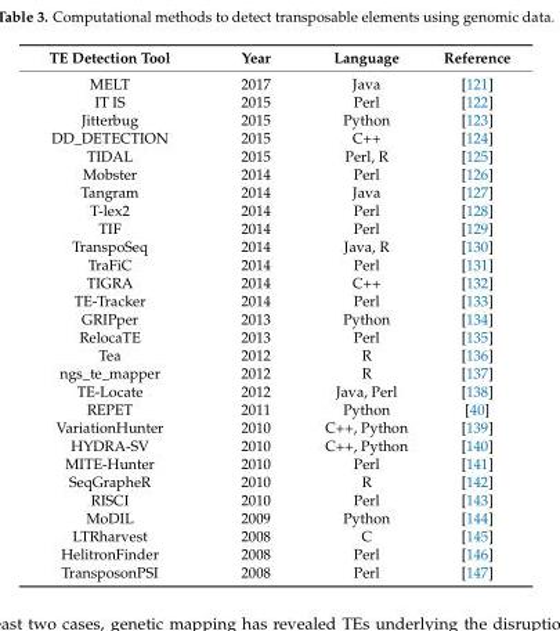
<table><thead><tr><td>TE Detection Tool</td><td>Year</td><td>Language</td><td>Reference</td></tr></thead><tbody><tr><td>MELT</td><td>2017</td><td>Java</td><td>[121]</td></tr><tr><td>IT IS</td><td>2015</td><td>Perl</td><td>[122]</td></tr><tr><td>Jitterbug</td><td>2015</td><td>Python</td><td>[123]</td></tr><tr><td>DD_DETECTION</td><td>2015</td><td>C++</td><td>[124]</td></tr><tr><td>TIDAL</td><td>2015</td><td>Perl, R</td><td>[125]</td></tr><tr><td>Mobster</td><td>2014</td><td>Perl</td><td>[126]</td></tr><tr><td>Tangram</td><td>2014</td><td>Java</td><td>[127]</td></tr><tr><td>T-lex2</td><td>2014</td><td>Perl</td><td>[128]</td></tr><tr><td>TIF</td><td>2014</td><td>Perl</td><td>[129]</td></tr><tr><td>TranspoSeq</td><td>2014</td><td>Java, R</td><td>[130]</td></tr><tr><td>TraFiC</td><td>2014</td><td>Perl</td><td>[131]</td></tr><tr><td>TIGRA</td><td>2014</td><td>C++</td><td>[132]</td></tr><tr><td>TE-Tracker</td><td>2014</td><td>Perl</td><td>[133]</td></tr><tr><td>GRIPper</td><td>2013</td><td>Python</td><td>[134]</td></tr><tr><td>RelocaTE</td><td>2013</td><td>Perl</td><td>[135]</td></tr><tr><td>Tea</td><td>2012</td><td>R</td><td>[136]</td></tr><tr><td>ngs_te_mapper</td><td>2012</td><td>R</td><td>[137]</td></tr><tr><td>TE-Locate</td><td>2012</td><td>Java, Perl</td><td>[138]</td></tr><tr><td>REPET</td><td>2011</td><td>Python</td><td>[40]</td></tr><tr><td>VariationHunter</td><td>2010</td><td>C++, Python</td><td>[139]</td></tr><tr><td>HYDRA-SV</td><td>2010</td><td>C++, Python</td><td>[140]</td></tr><tr><td>MITE-Hunter</td><td>2010</td><td>Perl</td><td>[141]</td></tr><tr><td>SeqGrapheR</td><td>2010</td><td>R</td><td>[142]</td></tr><tr><td>RISCI</td><td>2010</td><td>Perl</td><td>[143]</td></tr><tr><td>MoDIL</td><td>2009</td><td>Python</td><td>[144]</td></tr><tr><td>LTRharvest</td><td>2008</td><td>C</td><td>[145]</td></tr><tr><td>HelitronFinder</td><td>2008</td><td>Perl</td><td>[146]</td></tr><tr><td>TransposonPSI</td><td>2008</td><td>Perl</td><td>[147]</td></tr></tbody></table>